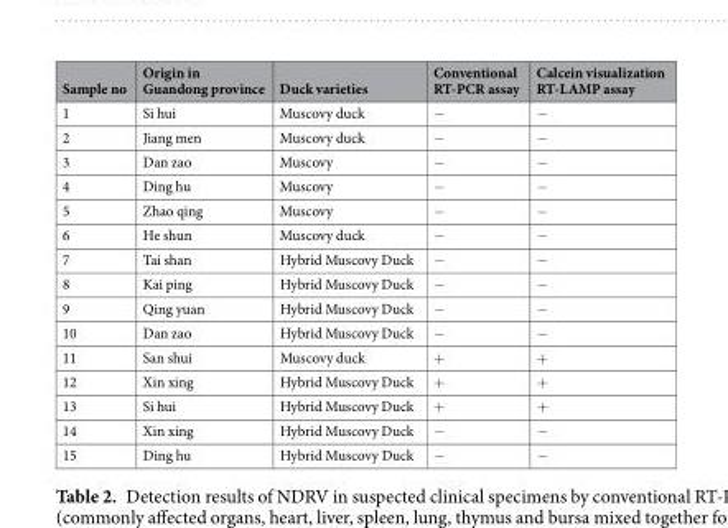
<table><thead><tr><td>Sample no</td><td>Origin in Guandong province</td><td>Duck varieties</td><td>Conventional RT-PCR assay</td><td>Calcein visualization RT-LAMP assay</td></tr></thead><tbody><tr><td>1</td><td>Si hui</td><td>Muscovy duck</td><td>−</td><td>−</td></tr><tr><td>2</td><td>Jiang men</td><td>Muscovy duck</td><td>−</td><td>−</td></tr><tr><td>3</td><td>Dan zao</td><td>Muscovy</td><td>−</td><td>−</td></tr><tr><td>4</td><td>Ding hu</td><td>Muscovy</td><td>−</td><td>−</td></tr><tr><td>5</td><td>Zhao qing</td><td>Muscovy</td><td>−</td><td>−</td></tr><tr><td>6</td><td>He shun</td><td>Muscovy duck</td><td>−</td><td>−</td></tr><tr><td>7</td><td>Tai shan</td><td>Hybrid Muscovy Duck</td><td>−</td><td>−</td></tr><tr><td>8</td><td>Kai ping</td><td>Hybrid Muscovy Duck</td><td>−</td><td>−</td></tr><tr><td>9</td><td>Qing yuan</td><td>Hybrid Muscovy Duck</td><td>−</td><td>−</td></tr><tr><td>10</td><td>Dan zao</td><td>Hybrid Muscovy Duck</td><td>−</td><td>−</td></tr><tr><td>11</td><td>San shui</td><td>Muscovy duck</td><td>+</td><td>+</td></tr><tr><td>12</td><td>Xin xing</td><td>Hybrid Muscovy Duck</td><td>+</td><td>+</td></tr><tr><td>13</td><td>Si hui</td><td>Hybrid Muscovy Duck</td><td>+</td><td>+</td></tr><tr><td>14</td><td>Xin xing</td><td>Hybrid Muscovy Duck</td><td>−</td><td>−</td></tr><tr><td>15</td><td>Ding hu</td><td>Hybrid Muscovy Duck</td><td>−</td><td>−</td></tr></tbody></table>